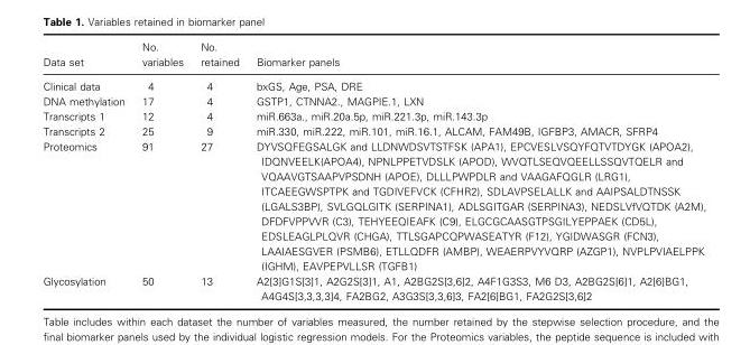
<table><thead><tr><td>Data set</td><td>No. variables</td><td>No. retained</td><td>Biomarker panels</td></tr></thead><tbody><tr><td>Clinical data</td><td>4</td><td>4</td><td>bxGS, Age, PSA, DRE</td></tr><tr><td>DNA methylation</td><td>17</td><td>4</td><td>GSTP1, CTNNA2., MAGPIE.1, LXN</td></tr><tr><td>Transcripts 1</td><td>12</td><td>4</td><td>miR.663a., miR.20a.5p, miR.221.3p, miR.143.3p</td></tr><tr><td>Transcripts 2</td><td>25</td><td>9</td><td>miR.330, miR.222, miR.101, miR.16.1, ALCAM, FAM49B, IGFBP3, AMACR, SFRP4</td></tr><tr><td>Proteomics</td><td>91</td><td>27</td><td>DYVSQFEGSALGK and LLDNWDSVTSTFSK (APA1), EPCVESLVSQYFQTVTDYGK (APOA2), IDQNVEELK(APOA4), NPNLPPETVDSLK (APOD), WVQTLSEQVQEELLSSQVTQELR and VQAAVGTSAAPVPSDNH (APOE), DLLLPWPDLR and VAAGAFQGLR (LRG1), ITCAEEGWSPTPK and TGDIVEFVCK (CFHR2), SDLAVPSELALLK and AAIPSALDTNSSK (LGALS3BP), SVLGQLGITK (SERPINA1), ADLSGITGAR (SERPINA3), NEDSLVfVQTDK (A2M), DFDFVPPVVR (C3), TEHYEEQIEAFK (C9), ELGCGCAASGTPSGILYEPPAEK (CD5L), EDSLEAGLPLQVR (CHGA), TTLSGAPCQPWASEATYR (F12), YGIDWASGR (FCN3), LAAIAESGVER (PSMB6), ETLLQDFR (AMBP), WEAERPVYVQRP (AZGP1), NVPLPVIAELPPK (IGHM), EAVPEPVLLSR (TGFB1)</td></tr><tr><td>Glycosylation</td><td>50</td><td>13</td><td>A2[3]G1S[3]1, A2G2S[3]1, A1, A2BG2S[3,6]2, A4F1G3S3, M6 D3, A2BG2S[6]1, A2[6]BG1, A4G4S[3,3,3,3]4, FA2BG2, A3G3S[3,3,6]3, FA2[6]BG1, FA2G2S[3,6]2</td></tr></tbody></table>